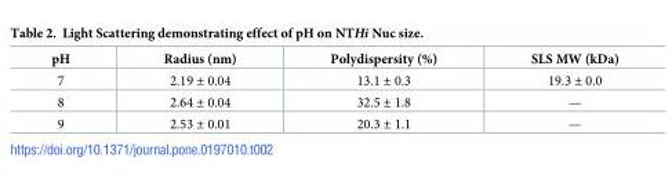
<table><thead><tr><td>pH</td><td>Radius (nm)</td><td>Polydispersity (%)</td><td>SLS MW (kDa)</td></tr></thead><tbody><tr><td>7</td><td>2.19 ± 0.04</td><td>13.1 ± 0.3</td><td>19.3 ± 0.0</td></tr><tr><td>8</td><td>2.64 ± 0.04</td><td>32.5 ± 1.8</td><td>—</td></tr><tr><td>9</td><td>2.53 ± 0.01</td><td>20.3 ± 1.1</td><td>—</td></tr></tbody></table>